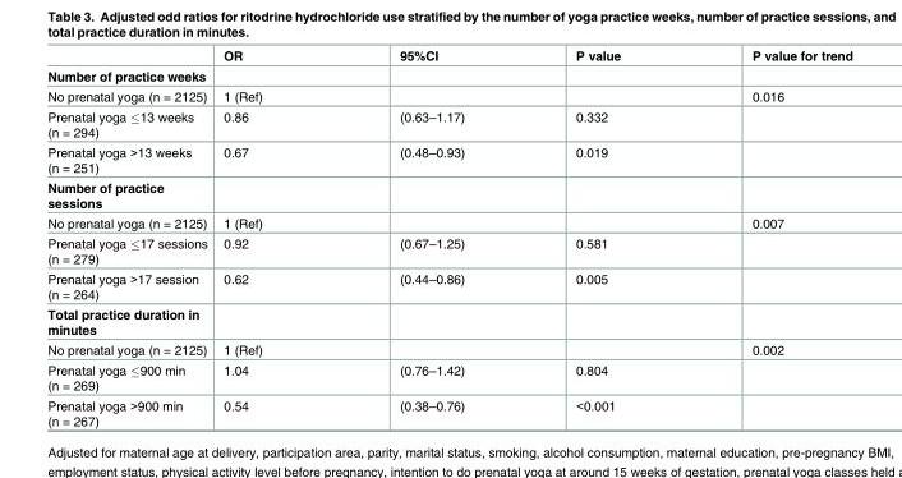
<table><thead><tr><td></td><td>OR</td><td>95%CI</td><td>P value</td><td>P value for trend</td></tr></thead><tbody><tr><td colspan="5">Number of practice weeks</td></tr><tr><td>No prenatal yoga (n = 2125)</td><td>1 (Ref)</td><td></td><td></td><td>0.016</td></tr><tr><td>Prenatal yoga ≤13 weeks (n = 294)</td><td>0.86</td><td>(0.63–1.17)</td><td>0.332</td><td></td></tr><tr><td>Prenatal yoga &gt;13 weeks (n = 251)</td><td>0.67</td><td>(0.48–0.93)</td><td>0.019</td><td></td></tr><tr><td colspan="5">Number of practice sessions</td></tr><tr><td>No prenatal yoga (n = 2125)</td><td>1 (Ref)</td><td></td><td></td><td>0.007</td></tr><tr><td>Prenatal yoga ≤17 sessions (n = 279)</td><td>0.92</td><td>(0.67–1.25)</td><td>0.581</td><td></td></tr><tr><td>Prenatal yoga &gt;17 session (n = 264)</td><td>0.62</td><td>(0.44–0.86)</td><td>0.005</td><td></td></tr><tr><td colspan="5">Total practice duration in minutes</td></tr><tr><td>No prenatal yoga (n = 2125)</td><td>1 (Ref)</td><td></td><td></td><td>0.002</td></tr><tr><td>Prenatal yoga ≤900 min (n = 269)</td><td>1.04</td><td>(0.76–1.42)</td><td>0.804</td><td></td></tr><tr><td>Prenatal yoga &gt;900 min (n = 267)</td><td>0.54</td><td>(0.38–0.76)</td><td>&lt;0.001</td><td></td></tr></tbody></table>